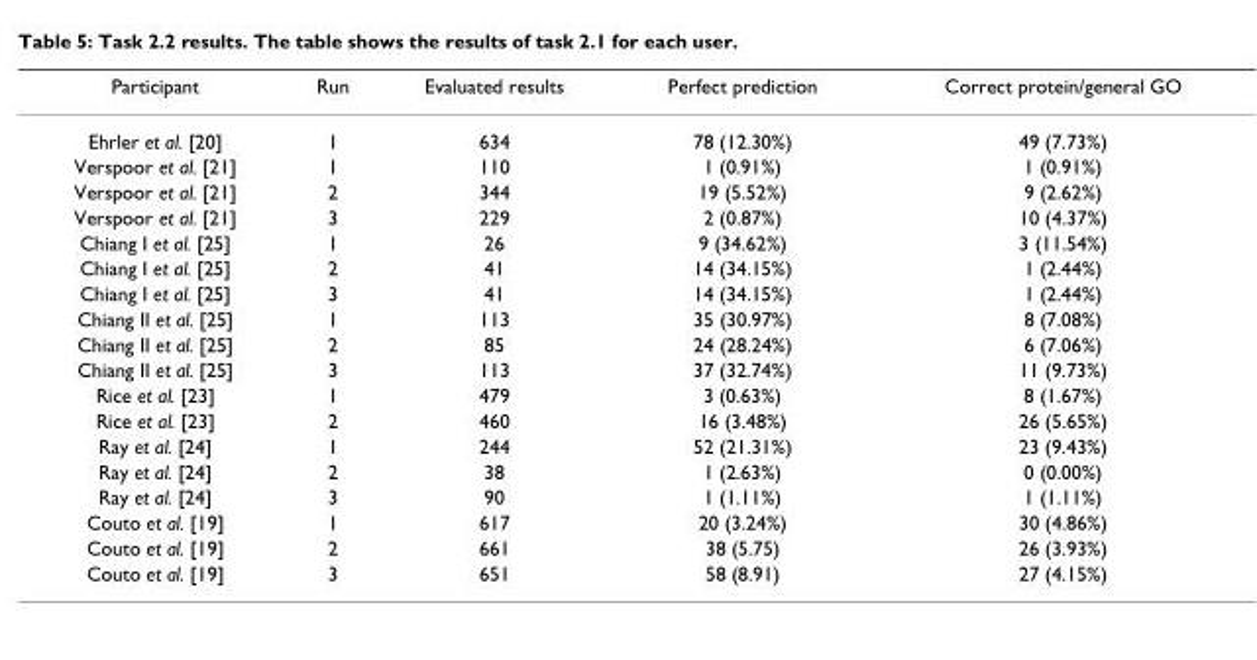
<table><thead><tr><td>Participant</td><td>Run</td><td>Evaluated results</td><td>Perfect prediction</td><td>Correct protein/general GO</td></tr></thead><tbody><tr><td>Ehrler et al. [20]</td><td>1</td><td>634</td><td>78 (12.30%)</td><td>49 (7.73%)</td></tr><tr><td>Verspoor et al. [21]</td><td>1</td><td>110</td><td>1 (0.91%)</td><td>1 (0.91%)</td></tr><tr><td>Verspoor et al. [21]</td><td>2</td><td>344</td><td>19 (5.52%)</td><td>9 (2.62%)</td></tr><tr><td>Verspoor et al. [21]</td><td>3</td><td>229</td><td>2 (0.87%)</td><td>10 (4.37%)</td></tr><tr><td>Chiang I et al. [25]</td><td>1</td><td>26</td><td>9 (34.62%)</td><td>3 (11.54%)</td></tr><tr><td>Chiang I et al. [25]</td><td>2</td><td>41</td><td>14 (34.15%)</td><td>1 (2.44%)</td></tr><tr><td>Chiang I et al. [25]</td><td>3</td><td>41</td><td>14 (34.15%)</td><td>1 (2.44%)</td></tr><tr><td>Chiang II et al. [25]</td><td>1</td><td>113</td><td>35 (30.97%)</td><td>8 (7.08%)</td></tr><tr><td>Chiang II et al. [25]</td><td>2</td><td>85</td><td>24 (28.24%)</td><td>6 (7.06%)</td></tr><tr><td>Chiang II et al. [25]</td><td>3</td><td>113</td><td>37 (32.74%)</td><td>11 (9.73%)</td></tr><tr><td>Rice et al. [23]</td><td>1</td><td>479</td><td>3 (0.63%)</td><td>8 (1.67%)</td></tr><tr><td>Rice et al. [23]</td><td>2</td><td>460</td><td>16 (3.48%)</td><td>26 (5.65%)</td></tr><tr><td>Ray et al. [24]</td><td>1</td><td>244</td><td>52 (21.31%)</td><td>23 (9.43%)</td></tr><tr><td>Ray et al. [24]</td><td>2</td><td>38</td><td>1 (2.63%)</td><td>0 (0.00%)</td></tr><tr><td>Ray et al. [24]</td><td>3</td><td>90</td><td>1 (1.11%)</td><td>1 (1.11%)</td></tr><tr><td>Couto et al. [19]</td><td>1</td><td>617</td><td>20 (3.24%)</td><td>30 (4.86%)</td></tr><tr><td>Couto et al. [19]</td><td>2</td><td>661</td><td>38 (5.75)</td><td>26 (3.93%)</td></tr><tr><td>Couto et al. [19]</td><td>3</td><td>651</td><td>58 (8.91)</td><td>27 (4.15%)</td></tr></tbody></table>